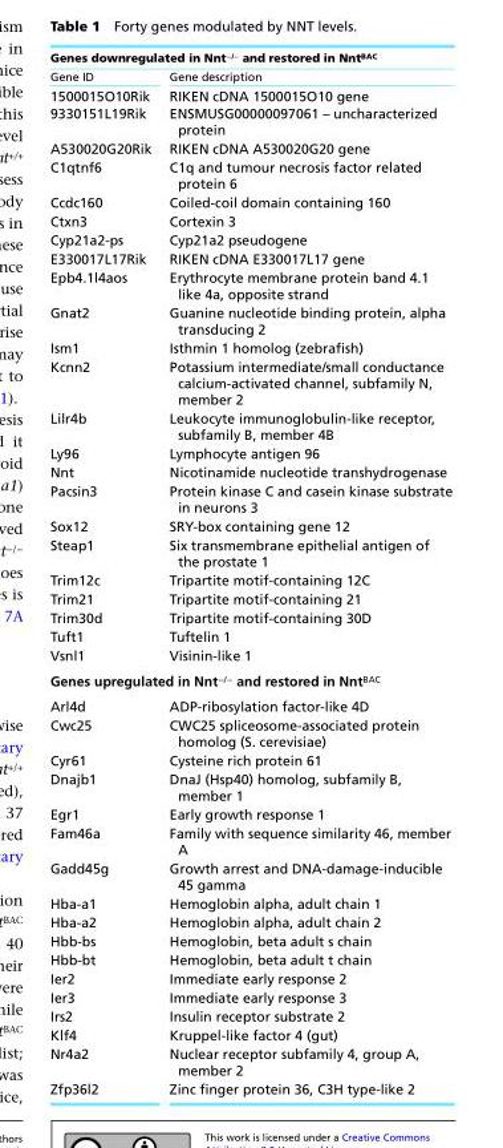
<table><thead><tr><td colspan="2">Genes downregulated in Nnt<sup>−/−</sup> and restored in Nnt<sup>BAC</sup></td></tr><tr><td>Gene ID</td><td>Gene description</td></tr></thead><tbody><tr><td>1500015O10Rik</td><td>RIKEN cDNA 1500015O10 gene</td></tr><tr><td>9330151L19Rik</td><td>ENSMUSG00000097061 – uncharacterized protein</td></tr><tr><td>A530020G20Rik</td><td>RIKEN cDNA A530020G20 gene</td></tr><tr><td>C1qtnf6</td><td>C1q and tumour necrosis factor related protein 6</td></tr><tr><td>Ccdc160</td><td>Coiled-coil domain containing 160</td></tr><tr><td>Ctxn3</td><td>Cortexin 3</td></tr><tr><td>Cyp21a2-ps</td><td>Cyp21a2 pseudogene</td></tr><tr><td>E330017L17Rik</td><td>RIKEN cDNA E330017L17 gene</td></tr><tr><td>Epb4.1l4aos</td><td>Erythrocyte membrane protein band 4.1 like 4a, opposite strand</td></tr><tr><td>Gnat2</td><td>Guanine nucleotide binding protein, alpha transducing 2</td></tr><tr><td>Ism1</td><td>Isthmin 1 homolog (zebrafish)</td></tr><tr><td>Kcnn2</td><td>Potassium intermediate/small conductance calcium-activated channel, subfamily N, member 2</td></tr><tr><td>Lilr4b</td><td>Leukocyte immunoglobulin-like receptor, subfamily B, member 4B</td></tr><tr><td>Ly96</td><td>Lymphocyte antigen 96</td></tr><tr><td>Nnt</td><td>Nicotinamide nucleotide transhydrogenase</td></tr><tr><td>Pacsin3</td><td>Protein kinase C and casein kinase substrate in neurons 3</td></tr><tr><td>Sox12</td><td>SRY-box containing gene 12</td></tr><tr><td>Steap1</td><td>Six transmembrane epithelial antigen of the prostate 1</td></tr><tr><td>Trim12c</td><td>Tripartite motif-containing 12C</td></tr><tr><td>Trim21</td><td>Tripartite motif-containing 21</td></tr><tr><td>Trim30d</td><td>Tripartite motif-containing 30D</td></tr><tr><td>Tuft1</td><td>Tuftelin 1</td></tr><tr><td>Vsnl1</td><td>Visinin-like 1</td></tr><tr><td colspan="2">Genes upregulated in Nnt<sup>−/−</sup> and restored in Nnt<sup>BAC</sup></td></tr><tr><td>Arl4d</td><td>ADP-ribosylation factor-like 4D</td></tr><tr><td>Cwc25</td><td>CWC25 spliceosome-associated protein homolog (S. cerevisiae)</td></tr><tr><td>Cyr61</td><td>Cysteine rich protein 61</td></tr><tr><td>Dnajb1</td><td>DnaJ (Hsp40) homolog, subfamily B, member 1</td></tr><tr><td>Egr1</td><td>Early growth response 1</td></tr><tr><td>Fam46a</td><td>Family with sequence similarity 46, member A</td></tr><tr><td>Gadd45g</td><td>Growth arrest and DNA-damage-inducible 45 gamma</td></tr><tr><td>Hba-a1</td><td>Hemoglobin alpha, adult chain 1</td></tr><tr><td>Hba-a2</td><td>Hemoglobin alpha, adult chain 2</td></tr><tr><td>Hbb-bs</td><td>Hemoglobin, beta adult s chain</td></tr><tr><td>Hbb-bt</td><td>Hemoglobin, beta adult t chain</td></tr><tr><td>Ier2</td><td>Immediate early response 2</td></tr><tr><td>Ier3</td><td>Immediate early response 3</td></tr><tr><td>Irs2</td><td>Insulin receptor substrate 2</td></tr><tr><td>Klf4</td><td>Kruppel-like factor 4 (gut)</td></tr><tr><td>Nr4a2</td><td>Nuclear receptor subfamily 4, group A, member 2</td></tr><tr><td>Zfp36l2</td><td>Zinc finger protein 36, C3H type-like 2</td></tr></tbody></table>